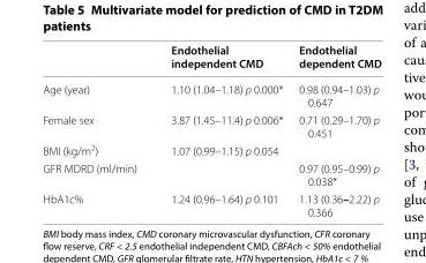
<table><thead><tr><td></td><td>Endothelial independent CMD</td><td>Endothelial dependent CMD</td></tr></thead><tbody><tr><td>Age (year)</td><td>1.10 (1.04–1.18) p 0.000*</td><td>0.98 (0.94–1.03) p 0.647</td></tr><tr><td>Female sex</td><td>3.87 (1.45–11.4) p 0.006*</td><td>0.71 (0.29–1.70) p 0.451</td></tr><tr><td>BMI (kg/m<sup>2</sup>)</td><td>1.07 (0.99–1.15) p 0.054</td><td></td></tr><tr><td>GFR MDRD (ml/min)</td><td></td><td>0.97 (0.95–0.99) p 0.038*</td></tr><tr><td>HbA1c%</td><td>1.24 (0.96–1.64) p 0.101</td><td>1.13 (0.36–2.22) p 0.366</td></tr></tbody></table>